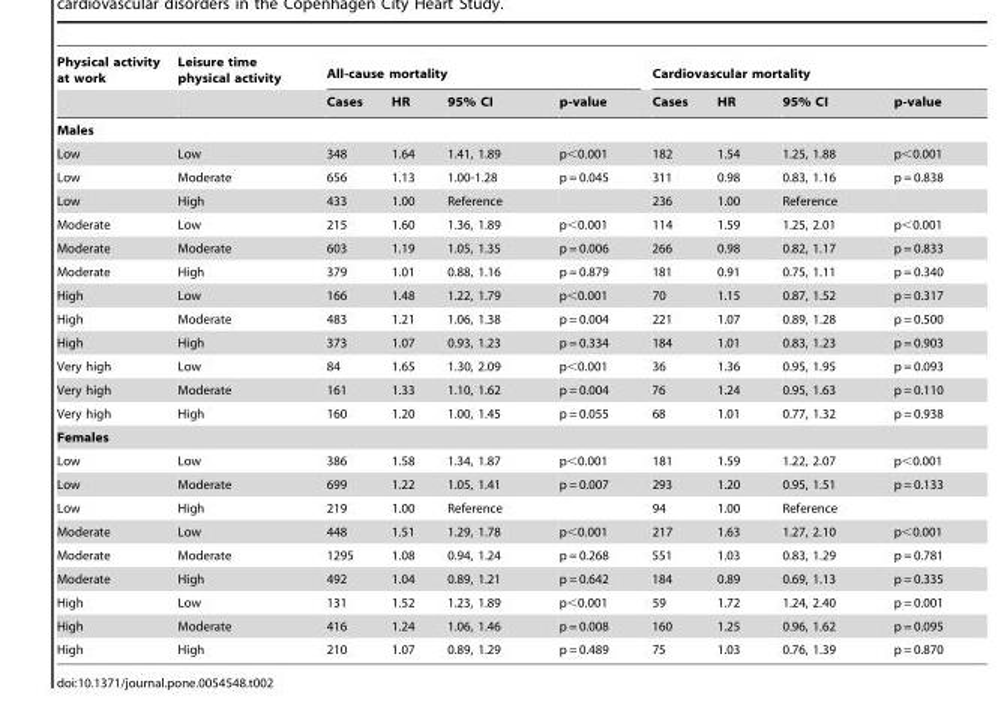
<table><thead><tr><td rowspan="2">Physical activity at work</td><td rowspan="2">Leisure time physical activity</td><td colspan="4">All-cause mortality</td><td colspan="4">Cardiovascular mortality</td></tr><tr><td>Cases</td><td>HR</td><td>95% CI</td><td>p-value</td><td>Cases</td><td>HR</td><td>95% CI</td><td>p-value</td></tr></thead><tbody><tr><td colspan="10">Males</td></tr><tr><td>Low</td><td>Low</td><td>348</td><td>1.64</td><td>1.41, 1.89</td><td>p&lt;0.001</td><td>182</td><td>1.54</td><td>1.25, 1.88</td><td>p&lt;0.001</td></tr><tr><td>Low</td><td>Moderate</td><td>656</td><td>1.13</td><td>1.00-1.28</td><td>p = 0.045</td><td>311</td><td>0.98</td><td>0.83, 1.16</td><td>p = 0.838</td></tr><tr><td>Low</td><td>High</td><td>433</td><td>1.00</td><td>Reference</td><td></td><td>236</td><td>1.00</td><td>Reference</td><td></td></tr><tr><td>Moderate</td><td>Low</td><td>215</td><td>1.60</td><td>1.36, 1.89</td><td>p&lt;0.001</td><td>114</td><td>1.59</td><td>1.25, 2.01</td><td>p&lt;0.001</td></tr><tr><td>Moderate</td><td>Moderate</td><td>603</td><td>1.19</td><td>1.05, 1.35</td><td>p = 0.006</td><td>266</td><td>0.98</td><td>0.82, 1.17</td><td>p = 0.833</td></tr><tr><td>Moderate</td><td>High</td><td>379</td><td>1.01</td><td>0.88, 1.16</td><td>p = 0.879</td><td>181</td><td>0.91</td><td>0.75, 1.11</td><td>p = 0.340</td></tr><tr><td>High</td><td>Low</td><td>166</td><td>1.48</td><td>1.22, 1.79</td><td>p&lt;0.001</td><td>70</td><td>1.15</td><td>0.87, 1.52</td><td>p = 0.317</td></tr><tr><td>High</td><td>Moderate</td><td>483</td><td>1.21</td><td>1.06, 1.38</td><td>p = 0.004</td><td>221</td><td>1.07</td><td>0.89, 1.28</td><td>p = 0.500</td></tr><tr><td>High</td><td>High</td><td>373</td><td>1.07</td><td>0.93, 1.23</td><td>p = 0.334</td><td>184</td><td>1.01</td><td>0.83, 1.23</td><td>p = 0.903</td></tr><tr><td>Very high</td><td>Low</td><td>84</td><td>1.65</td><td>1.30, 2.09</td><td>p&lt;0.001</td><td>36</td><td>1.36</td><td>0.95, 1.95</td><td>p = 0.093</td></tr><tr><td>Very high</td><td>Moderate</td><td>161</td><td>1.33</td><td>1.10, 1.62</td><td>p = 0.004</td><td>76</td><td>1.24</td><td>0.95, 1.63</td><td>p = 0.110</td></tr><tr><td>Very high</td><td>High</td><td>160</td><td>1.20</td><td>1.00, 1.45</td><td>p = 0.055</td><td>68</td><td>1.01</td><td>0.77, 1.32</td><td>p = 0.938</td></tr><tr><td colspan="10">Females</td></tr><tr><td>Low</td><td>Low</td><td>386</td><td>1.58</td><td>1.34, 1.87</td><td>p&lt;0.001</td><td>181</td><td>1.59</td><td>1.22, 2.07</td><td>p&lt;0.001</td></tr><tr><td>Low</td><td>Moderate</td><td>699</td><td>1.22</td><td>1.05, 1.41</td><td>p = 0.007</td><td>293</td><td>1.20</td><td>0.95, 1.51</td><td>p = 0.133</td></tr><tr><td>Low</td><td>High</td><td>219</td><td>1.00</td><td>Reference</td><td></td><td>94</td><td>1.00</td><td>Reference</td><td></td></tr><tr><td>Moderate</td><td>Low</td><td>448</td><td>1.51</td><td>1.29, 1.78</td><td>p&lt;0.001</td><td>217</td><td>1.63</td><td>1.27, 2.10</td><td>p&lt;0.001</td></tr><tr><td>Moderate</td><td>Moderate</td><td>1295</td><td>1.08</td><td>0.94, 1.24</td><td>p = 0.268</td><td>551</td><td>1.03</td><td>0.83, 1.29</td><td>p = 0.781</td></tr><tr><td>Moderate</td><td>High</td><td>492</td><td>1.04</td><td>0.89, 1.21</td><td>p = 0.642</td><td>184</td><td>0.89</td><td>0.69, 1.13</td><td>p = 0.335</td></tr><tr><td>High</td><td>Low</td><td>131</td><td>1.52</td><td>1.23, 1.89</td><td>p&lt;0.001</td><td>59</td><td>1.72</td><td>1.24, 2.40</td><td>p = 0.001</td></tr><tr><td>High</td><td>Moderate</td><td>416</td><td>1.24</td><td>1.06, 1.46</td><td>p = 0.008</td><td>160</td><td>1.25</td><td>0.96, 1.62</td><td>p = 0.095</td></tr><tr><td>High</td><td>High</td><td>210</td><td>1.07</td><td>0.89, 1.29</td><td>p = 0.489</td><td>75</td><td>1.03</td><td>0.76, 1.39</td><td>p = 0.870</td></tr></tbody></table>